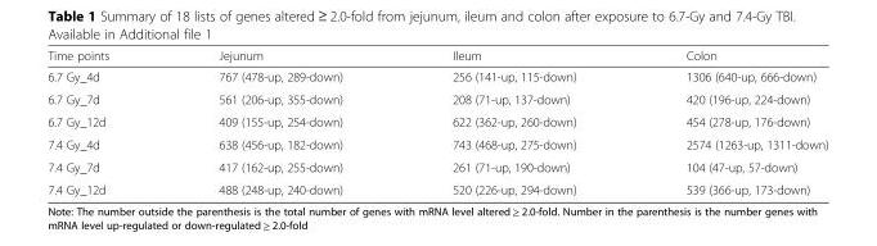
<table><thead><tr><td>Time points</td><td>Jejunum</td><td>Ileum</td><td>Colon</td></tr></thead><tbody><tr><td>6.7 Gy_4d</td><td>767 (478-up, 289-down)</td><td>256 (141-up, 115-down)</td><td>1306 (640-up, 666-down)</td></tr><tr><td>6.7 Gy_7d</td><td>561 (206-up, 355-down)</td><td>208 (71-up, 137-down)</td><td>420 (196-up, 224-down)</td></tr><tr><td>6.7 Gy_12d</td><td>409 (155-up, 254-down)</td><td>622 (362-up, 260-down)</td><td>454 (278-up, 176-down)</td></tr><tr><td>7.4 Gy_4d</td><td>638 (456-up, 182-down)</td><td>743 (468-up, 275-down)</td><td>2574 (1263-up, 1311-down)</td></tr><tr><td>7.4 Gy_7d</td><td>417 (162-up, 255-down)</td><td>261 (71-up, 190-down)</td><td>104 (47-up, 57-down)</td></tr><tr><td>7.4 Gy_12d</td><td>488 (248-up, 240-down)</td><td>520 (226-up, 294-down)</td><td>539 (366-up, 173-down)</td></tr></tbody></table>